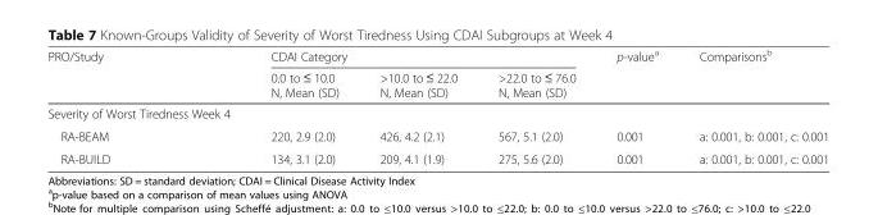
<table><thead><tr><td rowspan="2">PRO/Study</td><td colspan="3">CDAI Category</td><td rowspan="2">p-value<sup>a</sup></td><td rowspan="2">Comparisons<sup>b</sup></td></tr><tr><td>0.0 to ≤ 10.0 N, Mean (SD)</td><td>&gt;10.0 to ≤ 22.0 N, Mean (SD)</td><td>&gt;22.0 to ≤ 76.0 N, Mean (SD)</td></tr></thead><tbody><tr><td colspan="6">Severity of Worst Tiredness Week 4</td></tr><tr><td>RA-BEAM</td><td>220, 2.9 (2.0)</td><td>426, 4.2 (2.1)</td><td>567, 5.1 (2.0)</td><td>0.001</td><td>a: 0.001, b: 0.001, c: 0.001</td></tr><tr><td>RA-BUILD</td><td>134, 3.1 (2.0)</td><td>209, 4.1 (1.9)</td><td>275, 5.6 (2.0)</td><td>0.001</td><td>a: 0.001, b: 0.001, c: 0.001</td></tr></tbody></table>